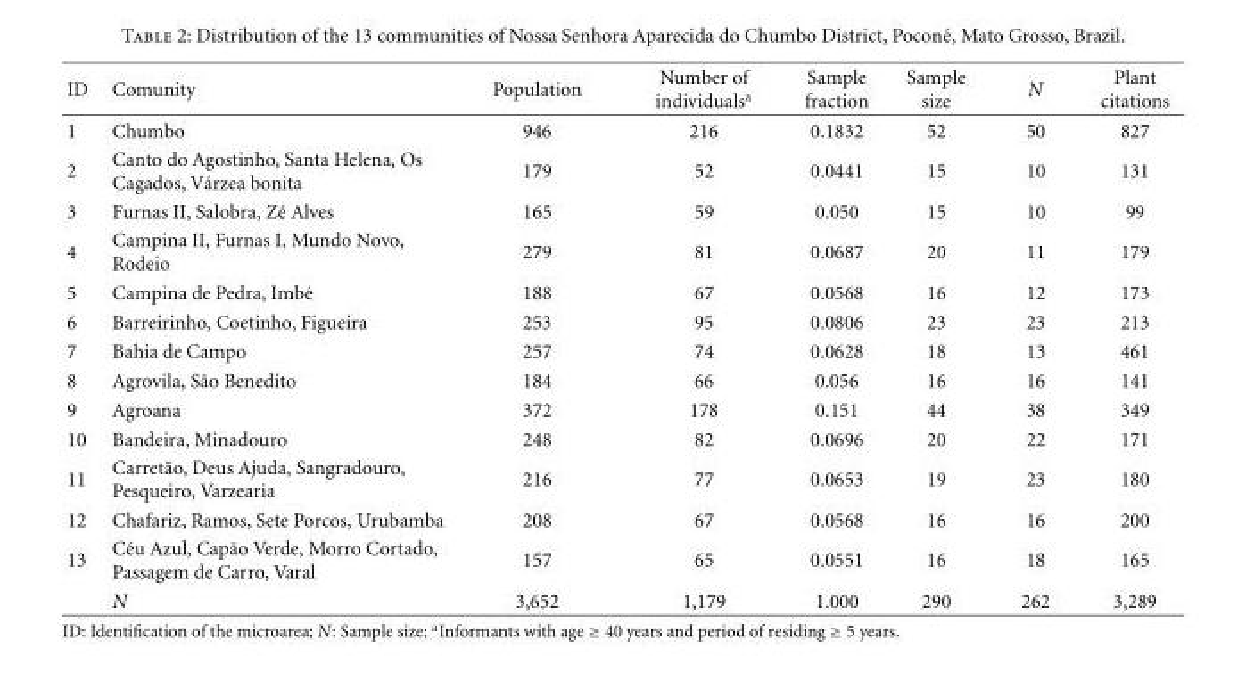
<table><thead><tr><td>ID</td><td>Comunity</td><td>Population</td><td>Number of individuals<sup>a</sup></td><td>Sample fraction</td><td>Sample size</td><td>N</td><td>Plant citations</td></tr></thead><tbody><tr><td>1</td><td>Chumbo</td><td>946</td><td>216</td><td>0.1832</td><td>52</td><td>50</td><td>827</td></tr><tr><td>2</td><td>Canto do Agostinho, Santa Helena, Os Cagados, V´arzea bonita</td><td>179</td><td>52</td><td>0.0441</td><td>15</td><td>10</td><td>131</td></tr><tr><td>3</td><td>Furnas II, Salobra, Z´e Alves</td><td>165</td><td>59</td><td>0.050</td><td>15</td><td>10</td><td>99</td></tr><tr><td>4</td><td>Campina II, Furnas I, Mundo Novo, Rodeio</td><td>279</td><td>81</td><td>0.0687</td><td>20</td><td>11</td><td>179</td></tr><tr><td>5</td><td>Campina de Pedra, Imb´e</td><td>188</td><td>67</td><td>0.0568</td><td>16</td><td>12</td><td>173</td></tr><tr><td>6</td><td>Barreirinho, Coetinho, Figueira</td><td>253</td><td>95</td><td>0.0806</td><td>23</td><td>23</td><td>213</td></tr><tr><td>7</td><td>Bahia de Campo</td><td>257</td><td>74</td><td>0.0628</td><td>18</td><td>13</td><td>461</td></tr><tr><td>8</td><td>Agrovila, S˜ao Benedito</td><td>184</td><td>66</td><td>0.056</td><td>16</td><td>16</td><td>141</td></tr><tr><td>9</td><td>Agroana</td><td>372</td><td>178</td><td>0.151</td><td>44</td><td>38</td><td>349</td></tr><tr><td>10</td><td>Bandeira, Minadouro</td><td>248</td><td>82</td><td>0.0696</td><td>20</td><td>22</td><td>171</td></tr><tr><td>11</td><td>Carret˜ao, Deus Ajuda, Sangradouro, Pesqueiro, Varzearia</td><td>216</td><td>77</td><td>0.0653</td><td>19</td><td>23</td><td>180</td></tr><tr><td>12</td><td>Chafariz, Ramos, Sete Porcos, Urubamba</td><td>208</td><td>67</td><td>0.0568</td><td>16</td><td>16</td><td>200</td></tr><tr><td rowspan="2">13</td><td>C´eu Azul, Cap˜ao Verde, Morro Cortado, Passagem de Carro, Varal</td><td>157</td><td>65</td><td>0.0551</td><td>16</td><td>18</td><td>165</td></tr><tr><td>N</td><td>3,652</td><td>1,179</td><td>1.000</td><td>290</td><td>262</td><td>3,289</td></tr></tbody></table>